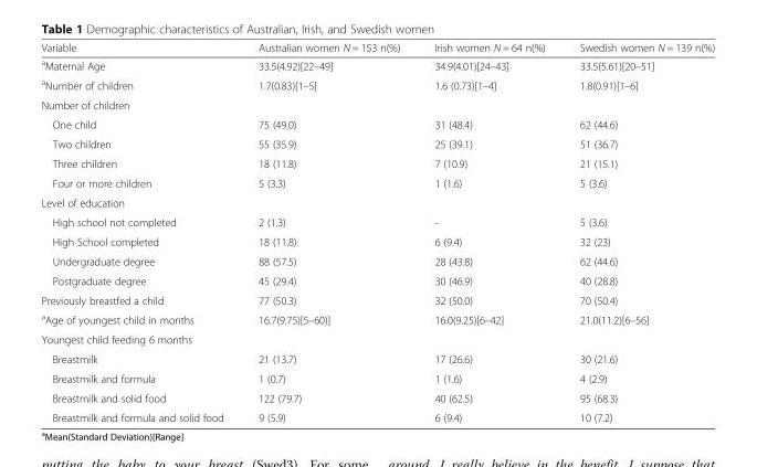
<table><thead><tr><td>Variable</td><td>Australian women N = 153 n(%)</td><td>Irish women N = 64 n(%)</td><td>Swedish women N = 139 n(%)</td></tr></thead><tbody><tr><td><sup>a</sup>Maternal Age</td><td>33.5(4.92)[22–49]</td><td>34.9(4.01)[24–43]</td><td>33.5(5.61)[20–51]</td></tr><tr><td><sup>a</sup>Number of children</td><td>1.7(0.83)[1–5]</td><td>1.6 (0.73)[1–4]</td><td>1.8(0.91)[1–6]</td></tr><tr><td colspan="4">Number of children</td></tr><tr><td>One child</td><td>75 (49.0)</td><td>31 (48.4)</td><td>62 (44.6)</td></tr><tr><td>Two children</td><td>55 (35.9)</td><td>25 (39.1)</td><td>51 (36.7)</td></tr><tr><td>Three children</td><td>18 (11.8)</td><td>7 (10.9)</td><td>21 (15.1)</td></tr><tr><td>Four or more children</td><td>5 (3.3)</td><td>1 (1.6)</td><td>5 (3.6)</td></tr><tr><td colspan="4">Level of education</td></tr><tr><td>High school not completed</td><td>2 (1.3)</td><td>-</td><td>5 (3.6)</td></tr><tr><td>High School completed</td><td>18 (11.8)</td><td>6 (9.4)</td><td>32 (23)</td></tr><tr><td>Undergraduate degree</td><td>88 (57.5)</td><td>28 (43.8)</td><td>62 (44.6)</td></tr><tr><td>Postgraduate degree</td><td>45 (29.4)</td><td>30 (46.9)</td><td>40 (28.8)</td></tr><tr><td>Previously breastfed a child</td><td>77 (50.3)</td><td>32 (50.0)</td><td>70 (50.4)</td></tr><tr><td><sup>a</sup>Age of youngest child in months</td><td>16.7(9.75)[5–60)]</td><td>16.0(9.25)[6–42]</td><td>21.0(11.2)[6–56]</td></tr><tr><td colspan="4">Youngest child feeding 6 months</td></tr><tr><td>Breastmilk</td><td>21 (13.7)</td><td>17 (26.6)</td><td>30 (21.6)</td></tr><tr><td>Breastmilk and formula</td><td>1 (0.7)</td><td>1 (1.6)</td><td>4 (2.9)</td></tr><tr><td>Breastmilk and solid food</td><td>122 (79.7)</td><td>40 (62.5)</td><td>95 (68.3)</td></tr><tr><td>Breastmilk and formula and solid food</td><td>9 (5.9)</td><td>6 (9.4)</td><td>10 (7.2)</td></tr></tbody></table>